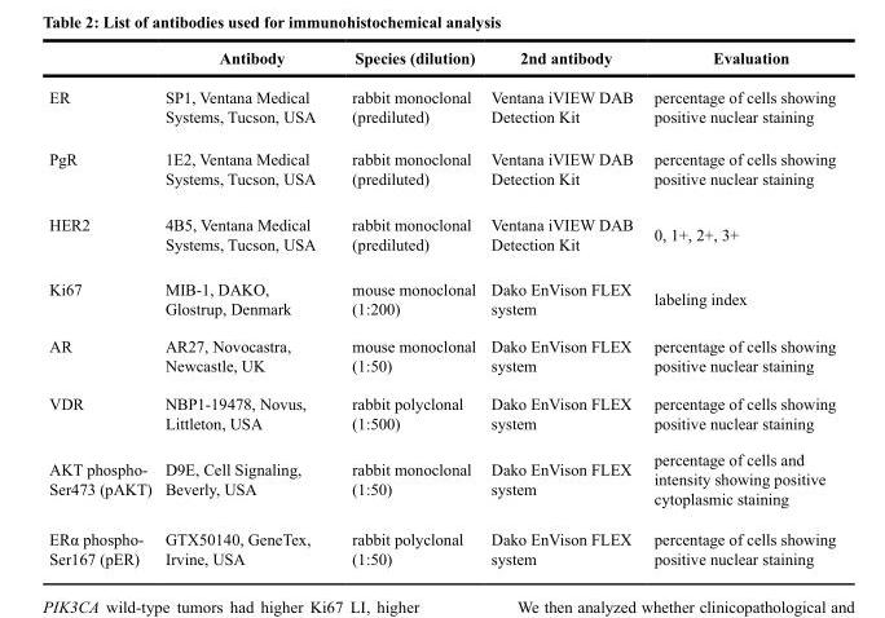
<table><thead><tr><td></td><td>Antibody</td><td>Species (dilution)</td><td>2nd antibody</td><td>Evaluation</td></tr></thead><tbody><tr><td>ER</td><td>SP1, Ventana Medical Systems, Tucson, USA</td><td>rabbit monoclonal (prediluted)</td><td>Ventana iVIEW DAB Detection Kit</td><td>percentage of cells showing positive nuclear staining</td></tr><tr><td>PgR</td><td>1E2, Ventana Medical Systems, Tucson, USA</td><td>rabbit monoclonal (prediluted)</td><td>Ventana iVIEW DAB Detection Kit</td><td>percentage of cells showing positive nuclear staining</td></tr><tr><td>HER2</td><td>4B5, Ventana Medical Systems, Tucson, USA</td><td>rabbit monoclonal (prediluted)</td><td>Ventana iVIEW DAB Detection Kit</td><td>0, 1+, 2+, 3+</td></tr><tr><td>Ki67</td><td>MIB-1, DAKO, Glostrup, Denmark</td><td>mouse monoclonal (1:200)</td><td>Dako EnVison FLEX system</td><td>labeling index</td></tr><tr><td>AR</td><td>AR27, Novocastra, Newcastle, UK</td><td>mouse monoclonal (1:50)</td><td>Dako EnVison FLEX system</td><td>percentage of cells showing positive nuclear staining</td></tr><tr><td>VDR</td><td>NBP1-19478, Novus, Littleton, USA</td><td>rabbit polyclonal (1:500)</td><td>Dako EnVison FLEX system</td><td>percentage of cells showing positive nuclear staining</td></tr><tr><td>AKT phospho- Ser473 (pAKT)</td><td>D9E, Cell Signaling, Beverly, USA</td><td>rabbit monoclonal (1:50)</td><td>Dako EnVison FLEX system</td><td>percentage of cells and intensity showing positive cytoplasmic staining</td></tr><tr><td>ERα phospho- Ser167 (pER)</td><td>GTX50140, GeneTex, Irvine, USA</td><td>rabbit polyclonal (1:50)</td><td>Dako EnVison FLEX system</td><td>percentage of cells showing positive nuclear staining</td></tr></tbody></table>